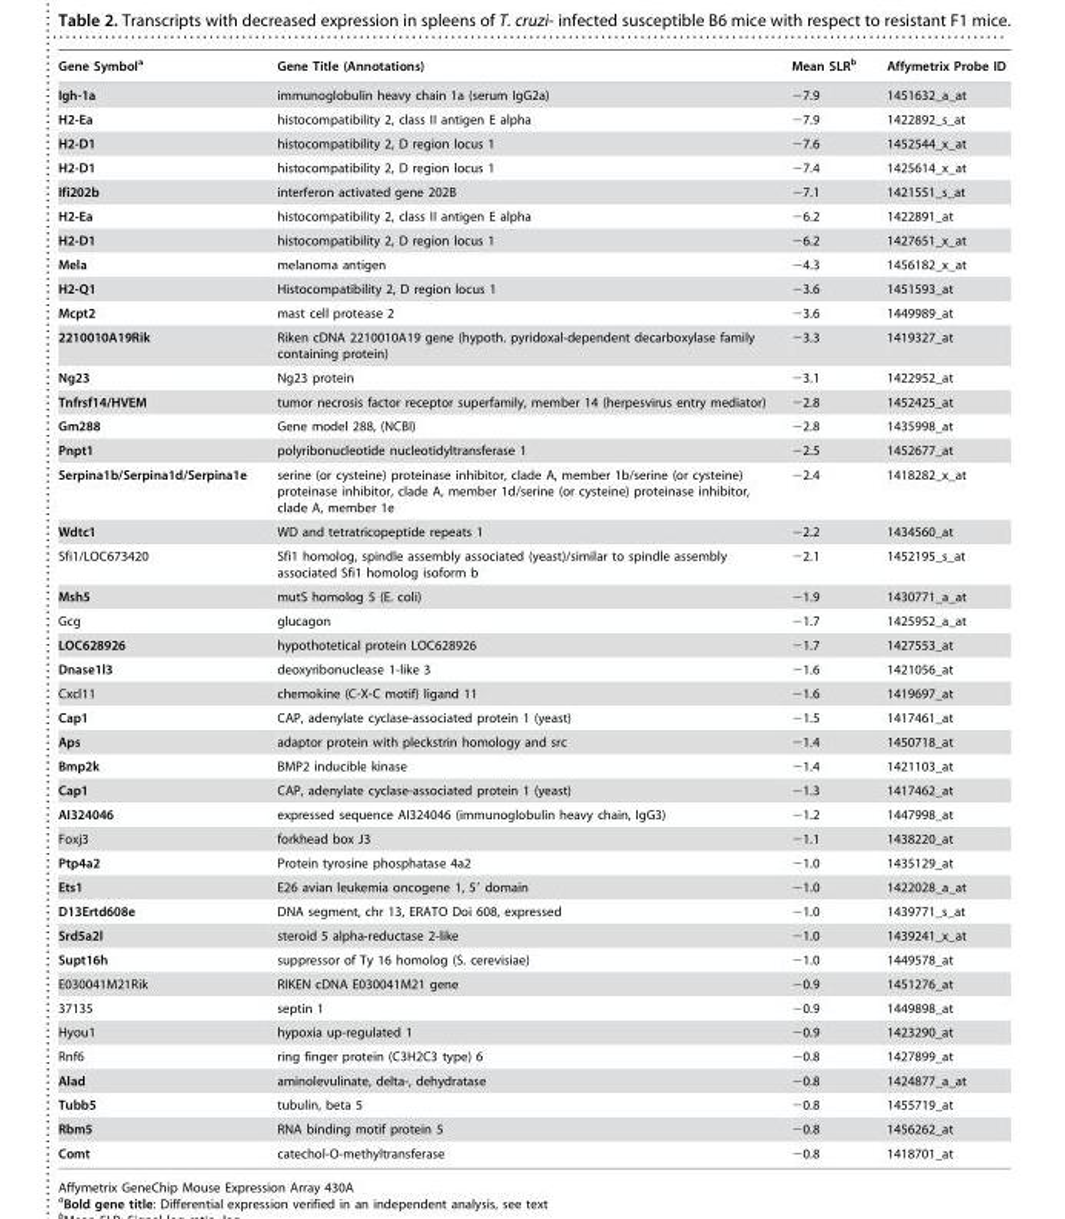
<table><thead><tr><td>Gene Symbol<sup>a</sup></td><td>Gene Title (Annotations)</td><td>Mean SLR<sup>b</sup></td><td>Affymetrix Probe ID</td></tr></thead><tbody><tr><td>Igh-1a</td><td>immunoglobulin heavy chain 1a (serum IgG2a)</td><td>−7.9</td><td>1451632_a_at</td></tr><tr><td>H2-Ea</td><td>histocompatibility 2, class II antigen E alpha</td><td>−7.9</td><td>1422892_s_at</td></tr><tr><td>H2-D1</td><td>histocompatibility 2, D region locus 1</td><td>−7.6</td><td>1452544_x_at</td></tr><tr><td>H2-D1</td><td>histocompatibility 2, D region locus 1</td><td>−7.4</td><td>1425614_x_at</td></tr><tr><td>Ifi202b</td><td>interferon activated gene 202B</td><td>−7.1</td><td>1421551_s_at</td></tr><tr><td>H2-Ea</td><td>histocompatibility 2, class II antigen E alpha</td><td>−6.2</td><td>1422891_at</td></tr><tr><td>H2-D1</td><td>histocompatibility 2, D region locus 1</td><td>−6.2</td><td>1427651_x_at</td></tr><tr><td>Mela</td><td>melanoma antigen</td><td>−4.3</td><td>1456182_x_at</td></tr><tr><td>H2-Q1</td><td>Histocompatibility 2, D region locus 1</td><td>−3.6</td><td>1451593_at</td></tr><tr><td>Mcpt2</td><td>mast cell protease 2</td><td>−3.6</td><td>1449989_at</td></tr><tr><td>2210010A19Rik</td><td>Riken cDNA 2210010A19 gene (hypoth. pyridoxal-dependent decarboxylase family containing protein)</td><td>−3.3</td><td>1419327_at</td></tr><tr><td>Ng23</td><td>Ng23 protein</td><td>−3.1</td><td>1422952_at</td></tr><tr><td>Tnfrsf14/HVEM</td><td>tumor necrosis factor receptor superfamily, member 14 (herpesvirus entry mediator)</td><td>−2.8</td><td>1452425_at</td></tr><tr><td>Gm288</td><td>Gene model 288, (NCBI)</td><td>−2.8</td><td>1435998_at</td></tr><tr><td>Pnpt1</td><td>polyribonucleotide nucleotidyltransferase 1</td><td>−2.5</td><td>1452677_at</td></tr><tr><td>Serpina1b/Serpina1d/Serpina1e</td><td>serine (or cysteine) proteinase inhibitor, clade A, member 1b/serine (or cysteine) proteinase inhibitor, clade A, member 1d/serine (or cysteine) proteinase inhibitor, clade A, member 1e</td><td>−2.4</td><td>1418282_x_at</td></tr><tr><td>Wdtc1</td><td>WD and tetratricopeptide repeats 1</td><td>−2.2</td><td>1434560_at</td></tr><tr><td>Sfi1/LOC673420</td><td>Sfi1 homolog, spindle assembly associated (yeast)/similar to spindle assembly associated Sfi1 homolog isoform b</td><td>−2.1</td><td>1452195_s_at</td></tr><tr><td>Msh5</td><td>mutS homolog 5 (E. coli)</td><td>−1.9</td><td>1430771_a_at</td></tr><tr><td>Gcg</td><td>glucagon</td><td>−1.7</td><td>1425952_a_at</td></tr><tr><td>LOC628926</td><td>hypothotetical protein LOC628926</td><td>−1.7</td><td>1427553_at</td></tr><tr><td>Dnase1l3</td><td>deoxyribonuclease 1-like 3</td><td>−1.6</td><td>1421056_at</td></tr><tr><td>Cxcl11</td><td>chemokine (C-X-C motif) ligand 11</td><td>−1.6</td><td>1419697_at</td></tr><tr><td>Cap1</td><td>CAP, adenylate cyclase-associated protein 1 (yeast)</td><td>−1.5</td><td>1417461_at</td></tr><tr><td>Aps</td><td>adaptor protein with pleckstrin homology and src</td><td>−1.4</td><td>1450718_at</td></tr><tr><td>Bmp2k</td><td>BMP2 inducible kinase</td><td>−1.4</td><td>1421103_at</td></tr><tr><td>Cap1</td><td>CAP, adenylate cyclase-associated protein 1 (yeast)</td><td>−1.3</td><td>1417462_at</td></tr><tr><td>AI324046</td><td>expressed sequence AI324046 (immunoglobulin heavy chain, IgG3)</td><td>−1.2</td><td>1447998_at</td></tr><tr><td>Foxj3</td><td>forkhead box J3</td><td>−1.1</td><td>1438220_at</td></tr><tr><td>Ptp4a2</td><td>Protein tyrosine phosphatase 4a2</td><td>−1.0</td><td>1435129_at</td></tr><tr><td>Ets1</td><td>E26 avian leukemia oncogene 1, 5′ domain</td><td>−1.0</td><td>1422028_a_at</td></tr><tr><td>D13Ertd608e</td><td>DNA segment, chr 13, ERATO Doi 608, expressed</td><td>−1.0</td><td>1439771_s_at</td></tr><tr><td>Srd5a2l</td><td>steroid 5 alpha-reductase 2-like</td><td>−1.0</td><td>1439241_x_at</td></tr><tr><td>Supt16h</td><td>suppressor of Ty 16 homolog (S. cerevisiae)</td><td>−1.0</td><td>1449578_at</td></tr><tr><td>E030041M21Rik</td><td>RIKEN cDNA E030041M21 gene</td><td>−0.9</td><td>1451276_at</td></tr><tr><td>37135</td><td>septin 1</td><td>−0.9</td><td>1449898_at</td></tr><tr><td>Hyou1</td><td>hypoxia up-regulated 1</td><td>−0.9</td><td>1423290_at</td></tr><tr><td>Rnf6</td><td>ring finger protein (C3H2C3 type) 6</td><td>−0.8</td><td>1427899_at</td></tr><tr><td>Alad</td><td>aminolevulinate, delta-, dehydratase</td><td>−0.8</td><td>1424877_a_at</td></tr><tr><td>Tubb5</td><td>tubulin, beta 5</td><td>−0.8</td><td>1455719_at</td></tr><tr><td>Rbm5</td><td>RNA binding motif protein 5</td><td>−0.8</td><td>1456262_at</td></tr><tr><td>Comt</td><td>catechol-O-methyltransferase</td><td>−0.8</td><td>1418701_at</td></tr></tbody></table>